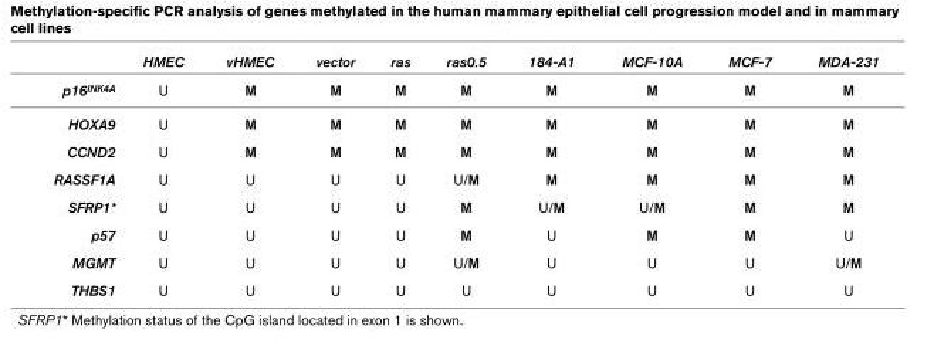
<table><thead><tr><td></td><td>HMEC</td><td>vHMEC</td><td>vector</td><td>ras</td><td>ras0.5</td><td>184-A1</td><td>MCF-10A</td><td>MCF-7</td><td>MDA-231</td></tr></thead><tbody><tr><td>p16<sup>INK4A</sup></td><td>U</td><td>M</td><td>M</td><td>M</td><td>M</td><td>M</td><td>M</td><td>M</td><td>M</td></tr><tr><td>HOXA9</td><td>U</td><td>M</td><td>M</td><td>M</td><td>M</td><td>M</td><td>M</td><td>M</td><td>M</td></tr><tr><td>CCND2</td><td>U</td><td>M</td><td>M</td><td>M</td><td>M</td><td>M</td><td>M</td><td>M</td><td>M</td></tr><tr><td>RASSF1A</td><td>U</td><td>U</td><td>U</td><td>U</td><td>U/M</td><td>M</td><td>M</td><td>M</td><td>M</td></tr><tr><td>SFRP1*</td><td>U</td><td>U</td><td>U</td><td>U</td><td>M</td><td>U/M</td><td>U/M</td><td>M</td><td>M</td></tr><tr><td>p57</td><td>U</td><td>U</td><td>U</td><td>U</td><td>M</td><td>U</td><td>M</td><td>M</td><td>U</td></tr><tr><td>MGMT</td><td>U</td><td>U</td><td>U</td><td>U</td><td>U/M</td><td>U</td><td>U</td><td>U</td><td>U/M</td></tr><tr><td>THBS1</td><td>U</td><td>U</td><td>U</td><td>U</td><td>U</td><td>U</td><td>U</td><td>U</td><td>U</td></tr></tbody></table>